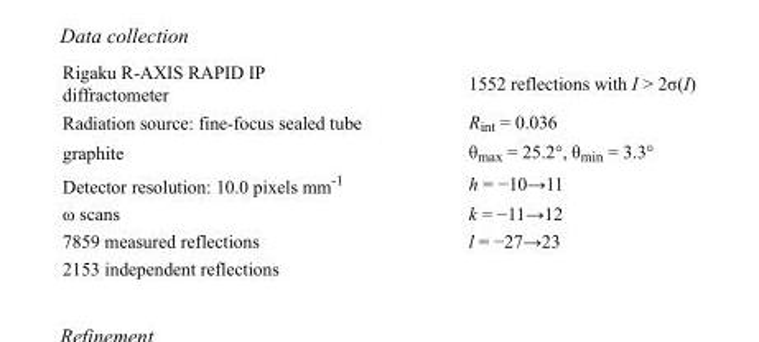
<table><tbody><tr><td>Rigaku R-AXIS RAPID IP diffractometer</td><td>1552 reflections with I &gt; 2σ(I)</td></tr><tr><td>Radiation source: fine-focus sealed tube</td><td>R<sub>int</sub> = 0.036</td></tr><tr><td>graphite</td><td>θ<sub>max</sub> = 25.2°, θ<sub>min</sub> = 3.3°</td></tr><tr><td>Detector resolution: 10.0 pixels mm<sup>-1</sup></td><td>h = −10→11</td></tr><tr><td>ω scans</td><td>k = −11→12</td></tr><tr><td>7859 measured reflections</td><td>l = −27→23</td></tr><tr><td>2153 independent reflections</td><td></td></tr></tbody></table>